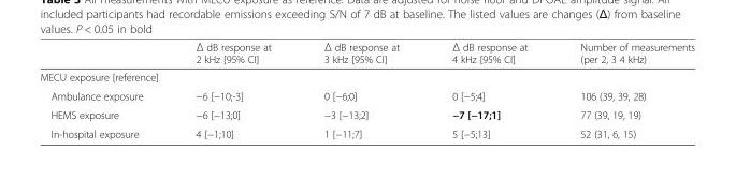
<table><thead><tr><td></td><td>Δ dB response at 2 kHz [95% CI]</td><td>Δ dB response at 3 kHz [95% CI]</td><td>Δ dB response at 4 kHz [95% CI]</td><td>Number of measurements (per 2, 3 4 kHz)</td></tr></thead><tbody><tr><td colspan="5">MECU exposure [reference]</td></tr><tr><td>Ambulance exposure</td><td>−6 [−10;-3]</td><td>0 [−6;0]</td><td>0 [−5;4]</td><td>106 (39, 39, 28)</td></tr><tr><td>HEMS exposure</td><td>−6 [−13;0]</td><td>−3 [−13;2]</td><td>−7 [−17;1]</td><td>77 (39, 19, 19)</td></tr><tr><td>In-hospital exposure</td><td>4 [−1;10]</td><td>1 [−11;7]</td><td>5 [−5;13]</td><td>52 (31, 6, 15)</td></tr></tbody></table>